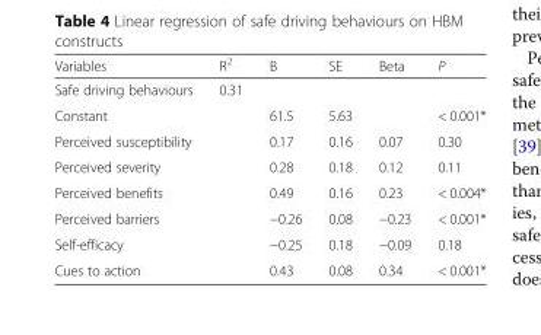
<table><thead><tr><td>Variables</td><td>R<sup>2</sup></td><td>B</td><td>SE</td><td>Beta</td><td>P</td></tr></thead><tbody><tr><td>Safe driving behaviours</td><td>0.31</td><td></td><td></td><td></td><td></td></tr><tr><td>Constant</td><td></td><td>61.5</td><td>5.63</td><td></td><td>&lt; 0.001*</td></tr><tr><td>Perceived susceptibility</td><td></td><td>0.17</td><td>0.16</td><td>0.07</td><td>0.30</td></tr><tr><td>Perceived severity</td><td></td><td>0.28</td><td>0.18</td><td>0.12</td><td>0.11</td></tr><tr><td>Perceived benefits</td><td></td><td>0.49</td><td>0.16</td><td>0.23</td><td>&lt; 0.004*</td></tr><tr><td>Perceived barriers</td><td></td><td>−0.26</td><td>0.08</td><td>−0.23</td><td>&lt; 0.001*</td></tr><tr><td>Self-efficacy</td><td></td><td>−0.25</td><td>0.18</td><td>−0.09</td><td>0.18</td></tr><tr><td>Cues to action</td><td></td><td>0.43</td><td>0.08</td><td>0.34</td><td>&lt; 0.001*</td></tr></tbody></table>